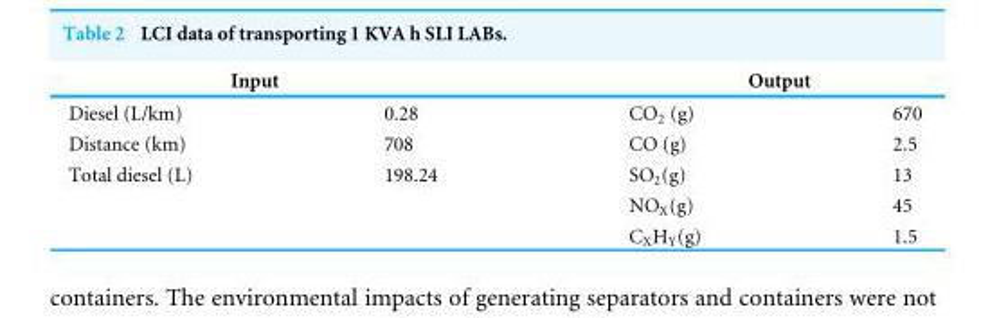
<table><thead><tr><td colspan="2">Input</td><td colspan="2">Output</td></tr><tr><td>Diesel (L/km)</td><td>0.28</td><td>CO<sub>2</sub> (g)</td><td>670</td></tr></thead><tbody><tr><td>Distance (km)</td><td>708</td><td>CO (g)</td><td>2.5</td></tr><tr><td rowspan="3">Total diesel (L)</td><td>198.24</td><td>SO<sub>2</sub>(g)</td><td>13</td></tr><tr><td></td><td>NO<sub>X</sub>(g)</td><td>45</td></tr><tr><td></td><td>C<sub>X</sub>H<sub>Y</sub>(g)</td><td>1.5</td></tr></tbody></table>